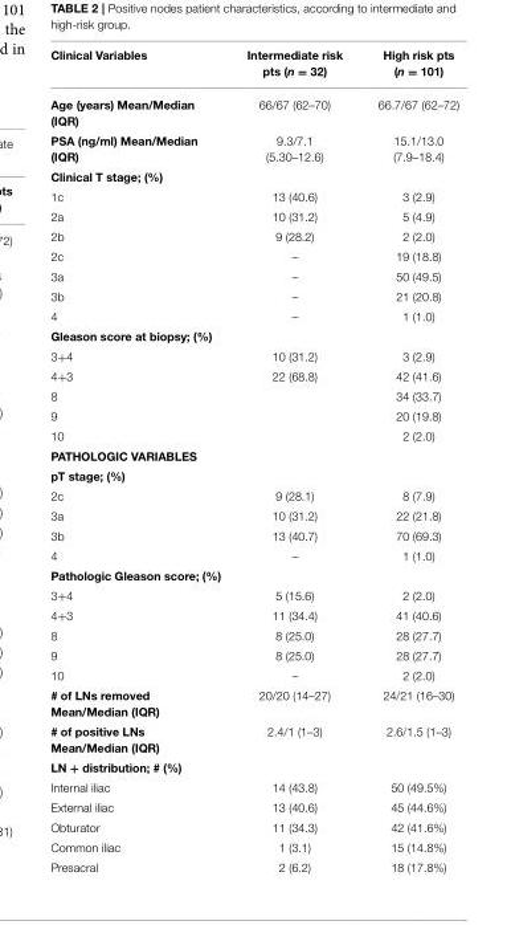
<table><thead><tr><td>Clinical Variables</td><td>Intermediate risk pts (n = 32)</td><td>High risk pts (n = 101)</td></tr></thead><tbody><tr><td>Age (years) Mean/Median (IQR)</td><td>66/67 (62–70)</td><td>66.7/67 (62–72)</td></tr><tr><td>PSA (ng/ml) Mean/Median (IQR)</td><td>9.3/7.1 (5.30–12.6)</td><td>15.1/13.0 (7.9–18.4)</td></tr><tr><td colspan="3">Clinical T stage; (%)</td></tr><tr><td>1c</td><td>13 (40.6)</td><td>3 (2.9)</td></tr><tr><td>2a</td><td>10 (31.2)</td><td>5 (4.9)</td></tr><tr><td>2b</td><td>9 (28.2)</td><td>2 (2.0)</td></tr><tr><td>2c</td><td>–</td><td>19 (18.8)</td></tr><tr><td>3a</td><td>–</td><td>50 (49.5)</td></tr><tr><td>3b</td><td>–</td><td>21 (20.8)</td></tr><tr><td>4</td><td>–</td><td>1 (1.0)</td></tr><tr><td colspan="3">Gleason score at biopsy; (%)</td></tr><tr><td>3+4</td><td>10 (31.2)</td><td>3 (2.9)</td></tr><tr><td>4+3</td><td>22 (68.8)</td><td>42 (41.6)</td></tr><tr><td>8</td><td></td><td>34 (33.7)</td></tr><tr><td>9</td><td></td><td>20 (19.8)</td></tr><tr><td>10</td><td></td><td>2 (2.0)</td></tr><tr><td colspan="3">PATHOLOGIC VARIABLES</td></tr><tr><td colspan="3">pT stage; (%)</td></tr><tr><td>2c</td><td>9 (28.1)</td><td>8 (7.9)</td></tr><tr><td>3a</td><td>10 (31.2)</td><td>22 (21.8)</td></tr><tr><td>3b</td><td>13 (40.7)</td><td>70 (69.3)</td></tr><tr><td>4</td><td>–</td><td>1 (1.0)</td></tr><tr><td colspan="3">Pathologic Gleason score; (%)</td></tr><tr><td>3+4</td><td>5 (15.6)</td><td>2 (2.0)</td></tr><tr><td>4+3</td><td>11 (34.4)</td><td>41 (40.6)</td></tr><tr><td>8</td><td>8 (25.0)</td><td>28 (27.7)</td></tr><tr><td>9</td><td>8 (25.0)</td><td>28 (27.7)</td></tr><tr><td>10</td><td>–</td><td>2 (2.0)</td></tr><tr><td># of LNs removed Mean/Median (IQR)</td><td>20/20 (14–27)</td><td>24/21 (16–30)</td></tr><tr><td># of positive LNs Mean/Median (IQR)</td><td>2.4/1 (1–3)</td><td>2.6/1.5 (1–3)</td></tr><tr><td colspan="3">LN + distribution; # (%)</td></tr><tr><td>Internal iliac</td><td>14 (43.8)</td><td>50 (49.5%)</td></tr><tr><td>External iliac</td><td>13 (40.6)</td><td>45 (44.6%)</td></tr><tr><td>Obturator</td><td>11 (34.3)</td><td>42 (41.6%)</td></tr><tr><td>Common iliac</td><td>1 (3.1)</td><td>15 (14.8%)</td></tr><tr><td>Presacral</td><td>2 (6.2)</td><td>18 (17.8%)</td></tr></tbody></table>